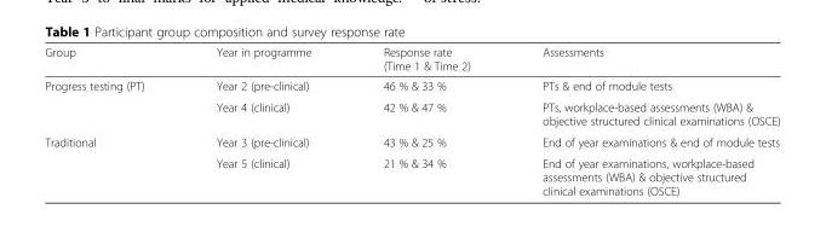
<table><thead><tr><td>Group</td><td>Year in programme</td><td>Response rate (Time 1 &amp; Time 2)</td><td>Assessments</td></tr></thead><tbody><tr><td rowspan="2">Progress testing (PT)</td><td>Year 2 (pre-clinical)</td><td>46 % &amp; 33 %</td><td>PTs &amp; end of module tests</td></tr><tr><td>Year 4 (clinical)</td><td>42 % &amp; 47 %</td><td>PTs, workplace-based assessments (WBA) &amp; objective structured clinical examinations (OSCE)</td></tr><tr><td rowspan="2">Traditional</td><td>Year 3 (pre-clinical)</td><td>43 % &amp; 25 %</td><td>End of year examinations &amp; end of module tests</td></tr><tr><td>Year 5 (clinical)</td><td>21 % &amp; 34 %</td><td>End of year examinations, workplace-based assessments (WBA) &amp; objective structured clinical examinations (OSCE)</td></tr></tbody></table>